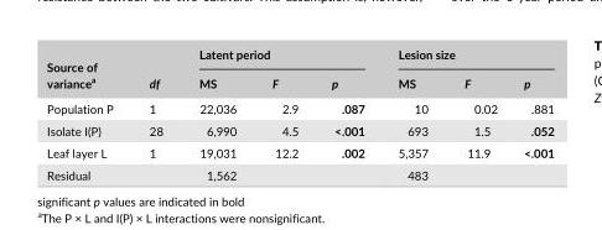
<table><thead><tr><td rowspan="2">Source of variance<sup>a</sup></td><td rowspan="2">df</td><td colspan="3">Latent period</td><td colspan="3">Lesion size</td></tr><tr><td>MS</td><td>F</td><td>p</td><td>MS</td><td>F</td><td>p</td></tr></thead><tbody><tr><td>Population P</td><td>1</td><td>22,036</td><td>2.9</td><td>.087</td><td>10</td><td>0.02</td><td>.881</td></tr><tr><td>Isolate I(P)</td><td>28</td><td>6,990</td><td>4.5</td><td>&lt;.001</td><td>693</td><td>1.5</td><td>.052</td></tr><tr><td>Leaf layer L</td><td>1</td><td>19,031</td><td>12.2</td><td>.002</td><td>5,357</td><td>11.9</td><td>&lt;.001</td></tr><tr><td>Residual</td><td></td><td>1,562</td><td></td><td></td><td>483</td><td></td><td></td></tr></tbody></table>